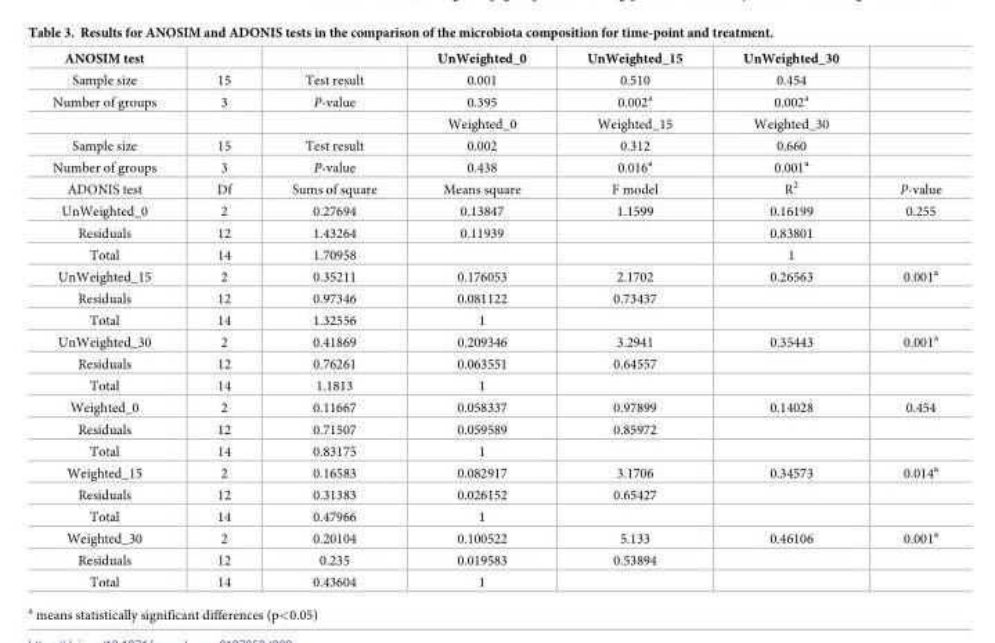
<table><thead><tr><td>ANOSIM test</td><td></td><td></td><td>UnWeighted_0</td><td>UnWeighted_15</td><td>UnWeighted_30</td><td></td></tr></thead><tbody><tr><td>Sample size</td><td>15</td><td>Test result</td><td>0.001</td><td>0.510</td><td>0.454</td><td></td></tr><tr><td rowspan="2">Number of groups</td><td>3</td><td>P-value</td><td>0.395</td><td>0.002<sup>a</sup></td><td>0.002<sup>a</sup></td><td></td></tr><tr><td></td><td></td><td>Weighted_0</td><td>Weighted_15</td><td>Weighted_30</td><td></td></tr><tr><td>Sample size</td><td>15</td><td>Test result</td><td>0.002</td><td>0.312</td><td>0.660</td><td></td></tr><tr><td>Number of groups</td><td>3</td><td>P-value</td><td>0.438</td><td>0.016<sup>a</sup></td><td>0.001<sup>a</sup></td><td></td></tr><tr><td>ADONIS test</td><td>Df</td><td>Sums of square</td><td>Means square</td><td>F model</td><td>R<sup>2</sup></td><td>P-value</td></tr><tr><td>UnWeighted_0</td><td>2</td><td>0.27694</td><td>0.13847</td><td>1.1599</td><td>0.16199</td><td>0.255</td></tr><tr><td>Residuals</td><td>12</td><td>1.43264</td><td>0.11939</td><td></td><td>0.83801</td><td></td></tr><tr><td>Total</td><td>14</td><td>1.70958</td><td></td><td></td><td>1</td><td></td></tr><tr><td>UnWeighted_15</td><td>2</td><td>0.35211</td><td>0.176053</td><td>2.1702</td><td>0.26563</td><td>0.001<sup>a</sup></td></tr><tr><td>Residuals</td><td>12</td><td>0.97346</td><td>0.081122</td><td>0.73437</td><td></td><td></td></tr><tr><td>Total</td><td>14</td><td>1.32556</td><td>1</td><td></td><td></td><td></td></tr><tr><td>UnWeighted_30</td><td>2</td><td>0.41869</td><td>0.209346</td><td>3.2941</td><td>0.35443</td><td>0.001<sup>a</sup></td></tr><tr><td>Residuals</td><td>12</td><td>0.76261</td><td>0.063551</td><td>0.64557</td><td></td><td></td></tr><tr><td>Total</td><td>14</td><td>1.1813</td><td>1</td><td></td><td></td><td></td></tr><tr><td>Weighted_0</td><td>2</td><td>0.11667</td><td>0.058337</td><td>0.97899</td><td>0.14028</td><td>0.454</td></tr><tr><td>Residuals</td><td>12</td><td>0.71507</td><td>0.059589</td><td>0.85972</td><td></td><td></td></tr><tr><td>Total</td><td>14</td><td>0.83175</td><td>1</td><td></td><td></td><td></td></tr><tr><td>Weighted_15</td><td>2</td><td>0.16583</td><td>0.082917</td><td>3.1706</td><td>0.34573</td><td>0.014<sup>a</sup></td></tr><tr><td>Residuals</td><td>12</td><td>0.31383</td><td>0.026152</td><td>0.65427</td><td></td><td></td></tr><tr><td>Total</td><td>14</td><td>0.47966</td><td>1</td><td></td><td></td><td></td></tr><tr><td>Weighted_30</td><td>2</td><td>0.20104</td><td>0.100522</td><td>5.133</td><td>0.46106</td><td>0.001<sup>a</sup></td></tr><tr><td>Residuals</td><td>12</td><td>0.235</td><td>0.019583</td><td>0.53894</td><td></td><td></td></tr><tr><td>Total</td><td>14</td><td>0.43604</td><td>1</td><td></td><td></td><td></td></tr></tbody></table>